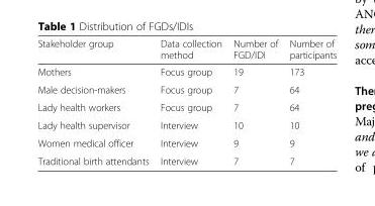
<table><thead><tr><td>Stakeholder group</td><td>Data collection method</td><td>Number of FGD/IDI</td><td>Number of participants</td></tr></thead><tbody><tr><td>Mothers</td><td>Focus group</td><td>19</td><td>173</td></tr><tr><td>Male decision-makers</td><td>Focus group</td><td>7</td><td>64</td></tr><tr><td>Lady health workers</td><td>Focus group</td><td>7</td><td>64</td></tr><tr><td>Lady health supervisor</td><td>Interview</td><td>10</td><td>10</td></tr><tr><td>Women medical officer</td><td>Interview</td><td>9</td><td>9</td></tr><tr><td>Traditional birth attendants</td><td>Interview</td><td>7</td><td>7</td></tr></tbody></table>